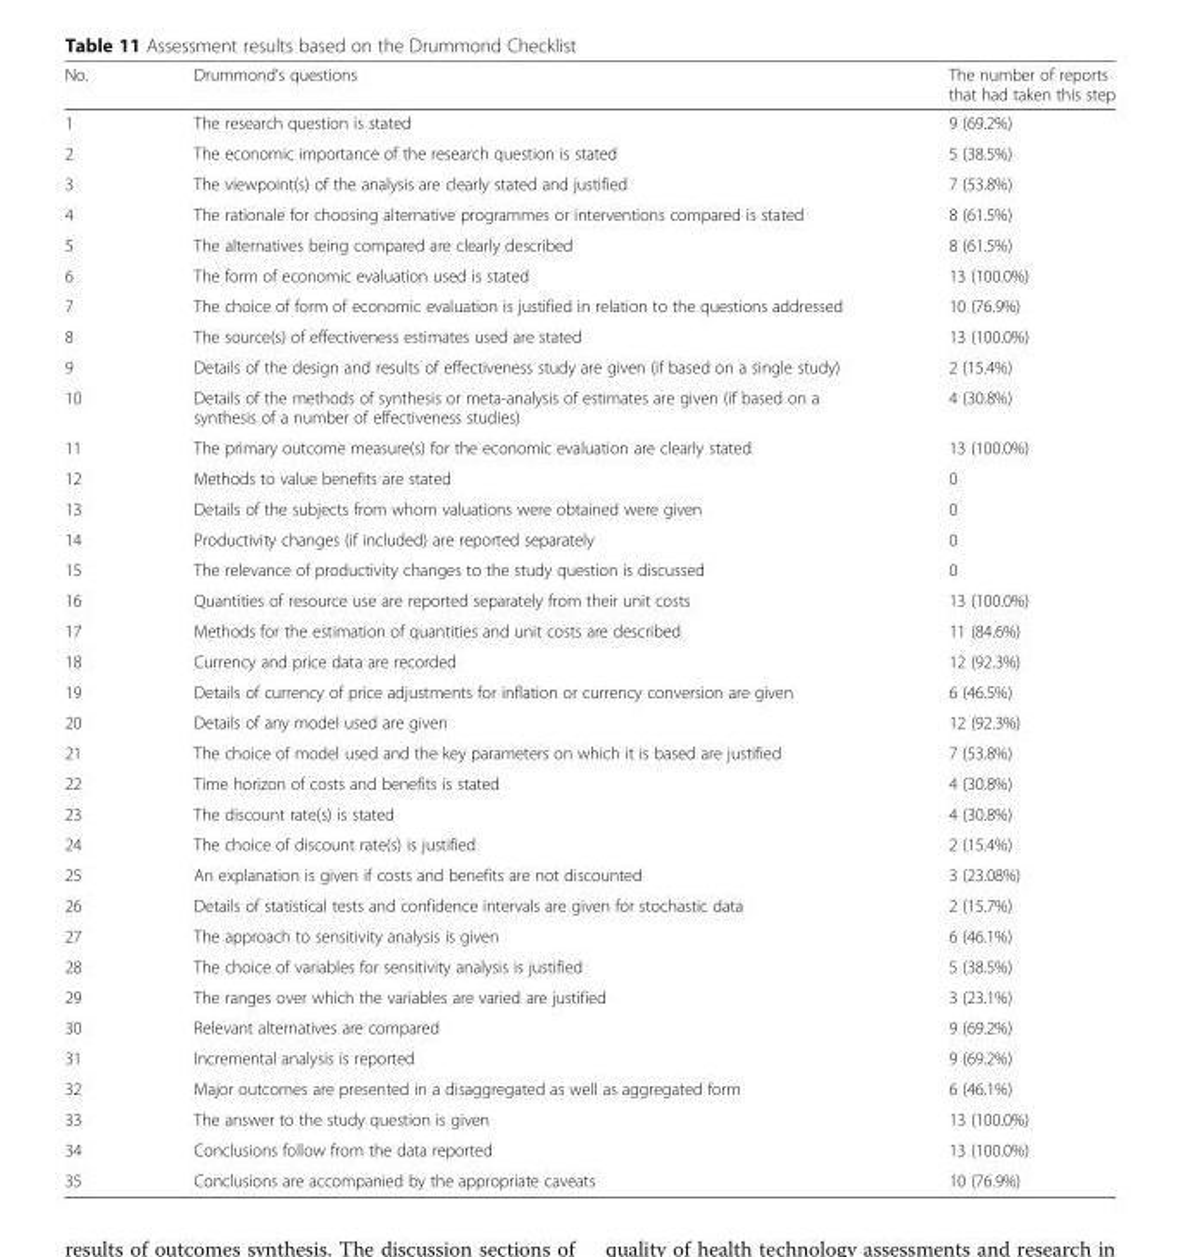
<table><thead><tr><td>No.</td><td>Drummond’s questions</td><td>The number of reports that had taken this step</td></tr></thead><tbody><tr><td>1</td><td>The research question is stated</td><td>9 (69.2%)</td></tr><tr><td>2</td><td>The economic importance of the research question is stated</td><td>5 (38.5%)</td></tr><tr><td>3</td><td>The viewpoint(s) of the analysis are clearly stated and justified</td><td>7 (53.8%)</td></tr><tr><td>4</td><td>The rationale for choosing alternative programmes or interventions compared is stated</td><td>8 (61.5%)</td></tr><tr><td>5</td><td>The alternatives being compared are clearly described</td><td>8 (61.5%)</td></tr><tr><td>6</td><td>The form of economic evaluation used is stated</td><td>13 (100.0%)</td></tr><tr><td>7</td><td>The choice of form of economic evaluation is justified in relation to the questions addressed</td><td>10 (76.9%)</td></tr><tr><td>8</td><td>The source(s) of effectiveness estimates used are stated</td><td>13 (100.0%)</td></tr><tr><td>9</td><td>Details of the design and results of effectiveness study are given (if based on a single study)</td><td>2 (15.4%)</td></tr><tr><td>10</td><td>Details of the methods of synthesis or meta-analysis of estimates are given (if based on a synthesis of a number of effectiveness studies)</td><td>4 (30.8%)</td></tr><tr><td>11</td><td>The primary outcome measure(s) for the economic evaluation are clearly stated</td><td>13 (100.0%)</td></tr><tr><td>12</td><td>Methods to value benefits are stated</td><td>0</td></tr><tr><td>13</td><td>Details of the subjects from whom valuations were obtained were given</td><td>0</td></tr><tr><td>14</td><td>Productivity changes (if included) are reported separately</td><td>0</td></tr><tr><td>15</td><td>The relevance of productivity changes to the study question is discussed</td><td>0</td></tr><tr><td>16</td><td>Quantities of resource use are reported separately from their unit costs</td><td>13 (100.0%)</td></tr><tr><td>17</td><td>Methods for the estimation of quantities and unit costs are described</td><td>11 (84.6%)</td></tr><tr><td>18</td><td>Currency and price data are recorded</td><td>12 (92.3%)</td></tr><tr><td>19</td><td>Details of currency of price adjustments for inflation or currency conversion are given</td><td>6 (46.5%)</td></tr><tr><td>20</td><td>Details of any model used are given</td><td>12 (92.3%)</td></tr><tr><td>21</td><td>The choice of model used and the key parameters on which it is based are justified</td><td>7 (53.8%)</td></tr><tr><td>22</td><td>Time horizon of costs and benefits is stated</td><td>4 (30.8%)</td></tr><tr><td>23</td><td>The discount rate(s) is stated</td><td>4 (30.8%)</td></tr><tr><td>24</td><td>The choice of discount rate(s) is justified</td><td>2 (15.4%)</td></tr><tr><td>25</td><td>An explanation is given if costs and benefits are not discounted</td><td>3 (23.08%)</td></tr><tr><td>26</td><td>Details of statistical tests and confidence intervals are given for stochastic data</td><td>2 (15.7%)</td></tr><tr><td>27</td><td>The approach to sensitivity analysis is given</td><td>6 (46.1%)</td></tr><tr><td>28</td><td>The choice of variables for sensitivity analysis is justified</td><td>5 (38.5%)</td></tr><tr><td>29</td><td>The ranges over which the variables are varied are justified</td><td>3 (23.1%)</td></tr><tr><td>30</td><td>Relevant alternatives are compared</td><td>9 (69.2%)</td></tr><tr><td>31</td><td>Incremental analysis is reported</td><td>9 (69.2%)</td></tr><tr><td>32</td><td>Major outcomes are presented in a disaggregated as well as aggregated form</td><td>6 (46.1%)</td></tr><tr><td>33</td><td>The answer to the study question is given</td><td>13 (100.0%)</td></tr><tr><td>34</td><td>Conclusions follow from the data reported</td><td>13 (100.0%)</td></tr><tr><td>35</td><td>Conclusions are accompanied by the appropriate caveats</td><td>10 (76.9%)</td></tr></tbody></table>